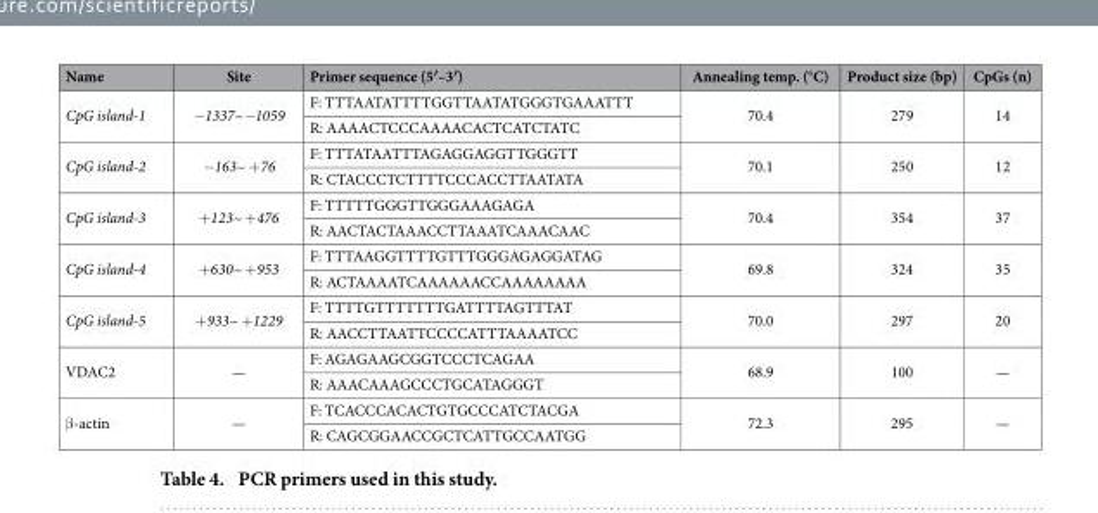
<table><thead><tr><td>Name</td><td>Site</td><td>Primer sequence (5′–3′)</td><td>Annealing temp. (°C)</td><td>Product size (bp)</td><td>CpGs (n)</td></tr></thead><tbody><tr><td rowspan="2">CpG island-1</td><td rowspan="2">−1337~−1059</td><td>F: TTTAATATTTTGGTTAATATGGGTGAAATTT</td><td rowspan="2">70.4</td><td rowspan="2">279</td><td rowspan="2">14</td></tr><tr><td>R: AAAACTCCCAAAACACTCATCTATC</td></tr><tr><td rowspan="2">CpG island-2</td><td rowspan="2">−163~ + 76</td><td>F: TTTATAATTTAGAGGAGGTTGGGTT</td><td rowspan="2">70.1</td><td rowspan="2">250</td><td rowspan="2">12</td></tr><tr><td>R: CTACCCTCTTTTCCCACCTTAATATA</td></tr><tr><td rowspan="2">CpG island-3</td><td rowspan="2">+ 123~ + 476</td><td>F: TTTTTGGGTTGGGAAAGAGA</td><td rowspan="2">70.4</td><td rowspan="2">354</td><td rowspan="2">37</td></tr><tr><td>R: AACTACTAAACCTTAAATCAAACAAC</td></tr><tr><td rowspan="2">CpG island-4</td><td rowspan="2">+ 630~ + 953</td><td>F: TTTAAGGTTTTGTTTGGGAGAGGATAG</td><td rowspan="2">69.8</td><td rowspan="2">324</td><td rowspan="2">35</td></tr><tr><td>R: ACTAAAATCAAAAAACCAAAAAAAA</td></tr><tr><td rowspan="2">CpG island-5</td><td rowspan="2">+ 933~ + 1229</td><td>F: TTTTGTTTTTTTGATTTTAGTTTAT</td><td rowspan="2">70.0</td><td rowspan="2">297</td><td rowspan="2">20</td></tr><tr><td>R: AACCTTAATTCCCCATTTAAAATCC</td></tr><tr><td rowspan="2">VDAC2</td><td rowspan="2">—</td><td>F: AGAGAAGCGGTCCCTCAGAA</td><td rowspan="2">68.9</td><td rowspan="2">100</td><td rowspan="2">—</td></tr><tr><td>R: AAACAAAGCCCTGCATAGGGT</td></tr><tr><td rowspan="2">β -actin</td><td rowspan="2">—</td><td>F: TCACCCACACTGTGCCCATCTACGA</td><td rowspan="2">72.3</td><td rowspan="2">295</td><td rowspan="2">—</td></tr><tr><td>R: CAGCGGAACCGCTCATTGCCAATGG</td></tr></tbody></table>